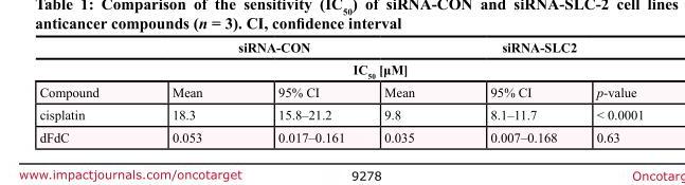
<table><thead><tr><td colspan="3">siRNA-CON</td><td colspan="3">siRNA-SLC2</td></tr><tr><td colspan="6">IC<sub>50</sub> [μM]</td></tr><tr><td>Compound</td><td>Mean</td><td>95% CI</td><td>Mean</td><td>95% CI</td><td>p-value</td></tr></thead><tbody><tr><td>cisplatin</td><td>18.3</td><td>15.8–21.2</td><td>9.8</td><td>8.1–11.7</td><td>&lt; 0.0001</td></tr><tr><td>dFdC</td><td>0.053</td><td>0.017–0.161</td><td>0.035</td><td>0.007–0.168</td><td>0.63</td></tr></tbody></table>